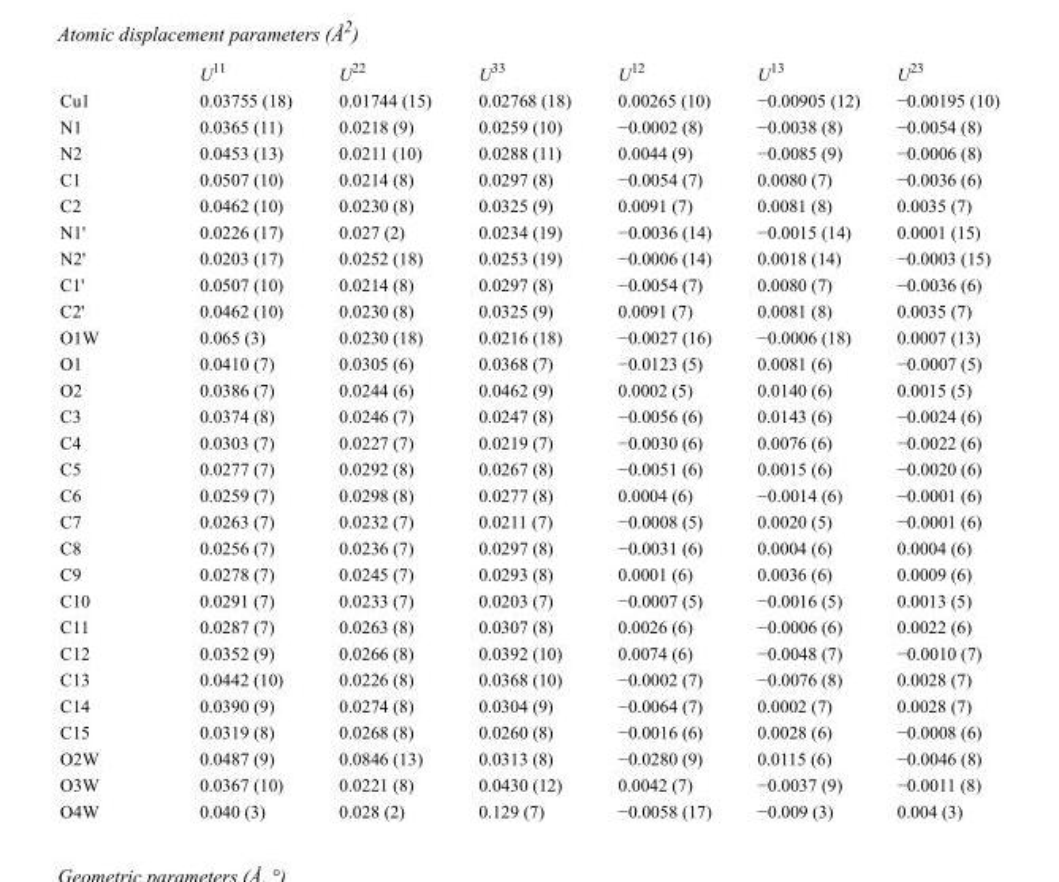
<table><thead><tr><td></td><td>U<sup>11</sup></td><td>U<sup>22</sup></td><td>U<sup>33</sup></td><td>U<sup>12</sup></td><td>U<sup>13</sup></td><td>U<sup>23</sup></td></tr></thead><tbody><tr><td>Cu1</td><td>0.03755 (18)</td><td>0.01744 (15)</td><td>0.02768 (18)</td><td>0.00265 (10)</td><td>−0.00905 (12)</td><td>−0.00195 (10)</td></tr><tr><td>N1</td><td>0.0365 (11)</td><td>0.0218 (9)</td><td>0.0259 (10)</td><td>−0.0002 (8)</td><td>−0.0038 (8)</td><td>−0.0054 (8)</td></tr><tr><td>N2</td><td>0.0453 (13)</td><td>0.0211 (10)</td><td>0.0288 (11)</td><td>0.0044 (9)</td><td>−0.0085 (9)</td><td>−0.0006 (8)</td></tr><tr><td>C1</td><td>0.0507 (10)</td><td>0.0214 (8)</td><td>0.0297 (8)</td><td>−0.0054 (7)</td><td>0.0080 (7)</td><td>−0.0036 (6)</td></tr><tr><td>C2</td><td>0.0462 (10)</td><td>0.0230 (8)</td><td>0.0325 (9)</td><td>0.0091 (7)</td><td>0.0081 (8)</td><td>0.0035 (7)</td></tr><tr><td>N1&#x27;</td><td>0.0226 (17)</td><td>0.027 (2)</td><td>0.0234 (19)</td><td>−0.0036 (14)</td><td>−0.0015 (14)</td><td>0.0001 (15)</td></tr><tr><td>N2&#x27;</td><td>0.0203 (17)</td><td>0.0252 (18)</td><td>0.0253 (19)</td><td>−0.0006 (14)</td><td>0.0018 (14)</td><td>−0.0003 (15)</td></tr><tr><td>C1&#x27;</td><td>0.0507 (10)</td><td>0.0214 (8)</td><td>0.0297 (8)</td><td>−0.0054 (7)</td><td>0.0080 (7)</td><td>−0.0036 (6)</td></tr><tr><td>C2&#x27;</td><td>0.0462 (10)</td><td>0.0230 (8)</td><td>0.0325 (9)</td><td>0.0091 (7)</td><td>0.0081 (8)</td><td>0.0035 (7)</td></tr><tr><td>O1W</td><td>0.065 (3)</td><td>0.0230 (18)</td><td>0.0216 (18)</td><td>−0.0027 (16)</td><td>−0.0006 (18)</td><td>0.0007 (13)</td></tr><tr><td>O1</td><td>0.0410 (7)</td><td>0.0305 (6)</td><td>0.0368 (7)</td><td>−0.0123 (5)</td><td>0.0081 (6)</td><td>−0.0007 (5)</td></tr><tr><td>O2</td><td>0.0386 (7)</td><td>0.0244 (6)</td><td>0.0462 (9)</td><td>0.0002 (5)</td><td>0.0140 (6)</td><td>0.0015 (5)</td></tr><tr><td>C3</td><td>0.0374 (8)</td><td>0.0246 (7)</td><td>0.0247 (8)</td><td>−0.0056 (6)</td><td>0.0143 (6)</td><td>−0.0024 (6)</td></tr><tr><td>C4</td><td>0.0303 (7)</td><td>0.0227 (7)</td><td>0.0219 (7)</td><td>−0.0030 (6)</td><td>0.0076 (6)</td><td>−0.0022 (6)</td></tr><tr><td>C5</td><td>0.0277 (7)</td><td>0.0292 (8)</td><td>0.0267 (8)</td><td>−0.0051 (6)</td><td>0.0015 (6)</td><td>−0.0020 (6)</td></tr><tr><td>C6</td><td>0.0259 (7)</td><td>0.0298 (8)</td><td>0.0277 (8)</td><td>0.0004 (6)</td><td>−0.0014 (6)</td><td>−0.0001 (6)</td></tr><tr><td>C7</td><td>0.0263 (7)</td><td>0.0232 (7)</td><td>0.0211 (7)</td><td>−0.0008 (5)</td><td>0.0020 (5)</td><td>−0.0001 (6)</td></tr><tr><td>C8</td><td>0.0256 (7)</td><td>0.0236 (7)</td><td>0.0297 (8)</td><td>−0.0031 (6)</td><td>0.0004 (6)</td><td>0.0004 (6)</td></tr><tr><td>C9</td><td>0.0278 (7)</td><td>0.0245 (7)</td><td>0.0293 (8)</td><td>0.0001 (6)</td><td>0.0036 (6)</td><td>0.0009 (6)</td></tr><tr><td>C10</td><td>0.0291 (7)</td><td>0.0233 (7)</td><td>0.0203 (7)</td><td>−0.0007 (5)</td><td>−0.0016 (5)</td><td>0.0013 (5)</td></tr><tr><td>C11</td><td>0.0287 (7)</td><td>0.0263 (8)</td><td>0.0307 (8)</td><td>0.0026 (6)</td><td>−0.0006 (6)</td><td>0.0022 (6)</td></tr><tr><td>C12</td><td>0.0352 (9)</td><td>0.0266 (8)</td><td>0.0392 (10)</td><td>0.0074 (6)</td><td>−0.0048 (7)</td><td>−0.0010 (7)</td></tr><tr><td>C13</td><td>0.0442 (10)</td><td>0.0226 (8)</td><td>0.0368 (10)</td><td>−0.0002 (7)</td><td>−0.0076 (8)</td><td>0.0028 (7)</td></tr><tr><td>C14</td><td>0.0390 (9)</td><td>0.0274 (8)</td><td>0.0304 (9)</td><td>−0.0064 (7)</td><td>0.0002 (7)</td><td>0.0028 (7)</td></tr><tr><td>C15</td><td>0.0319 (8)</td><td>0.0268 (8)</td><td>0.0260 (8)</td><td>−0.0016 (6)</td><td>0.0028 (6)</td><td>−0.0008 (6)</td></tr><tr><td>O2W</td><td>0.0487 (9)</td><td>0.0846 (13)</td><td>0.0313 (8)</td><td>−0.0280 (9)</td><td>0.0115 (6)</td><td>−0.0046 (8)</td></tr><tr><td>O3W</td><td>0.0367 (10)</td><td>0.0221 (8)</td><td>0.0430 (12)</td><td>0.0042 (7)</td><td>−0.0037 (9)</td><td>−0.0011 (8)</td></tr><tr><td>O4W</td><td>0.040 (3)</td><td>0.028 (2)</td><td>0.129 (7)</td><td>−0.0058 (17)</td><td>−0.009 (3)</td><td>0.004 (3)</td></tr></tbody></table>